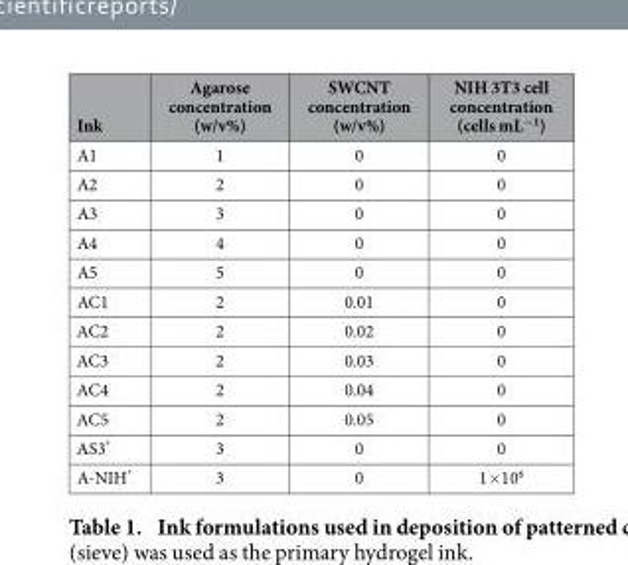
<table><thead><tr><td>Ink</td><td>Agarose concentration (w/v%)</td><td>SWCNT concentration (w/v%)</td><td>NIH 3T3 cell concentration (cells mL<sup>−1</sup>)</td></tr></thead><tbody><tr><td>A1</td><td>1</td><td>0</td><td>0</td></tr><tr><td>A2</td><td>2</td><td>0</td><td>0</td></tr><tr><td>A3</td><td>3</td><td>0</td><td>0</td></tr><tr><td>A4</td><td>4</td><td>0</td><td>0</td></tr><tr><td>A5</td><td>5</td><td>0</td><td>0</td></tr><tr><td>AC1</td><td>2</td><td>0.01</td><td>0</td></tr><tr><td>AC2</td><td>2</td><td>0.02</td><td>0</td></tr><tr><td>AC3</td><td>2</td><td>0.03</td><td>0</td></tr><tr><td>AC4</td><td>2</td><td>0.04</td><td>0</td></tr><tr><td>AC5</td><td>2</td><td>0.05</td><td>0</td></tr><tr><td>AS3*</td><td>3</td><td>0</td><td>0</td></tr><tr><td>A-NIH*</td><td>3</td><td>0</td><td>1× 10<sup>6</sup></td></tr></tbody></table>